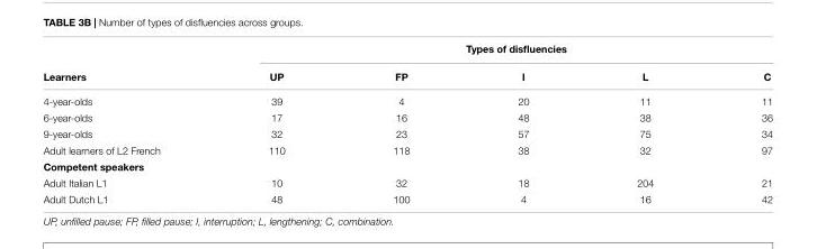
<table><thead><tr><td rowspan="2">Learners</td><td colspan="5">Types of disfluencies</td></tr><tr><td>UP</td><td>FP</td><td>I</td><td>L</td><td>C</td></tr></thead><tbody><tr><td>4-year-olds</td><td>39</td><td>4</td><td>20</td><td>11</td><td>11</td></tr><tr><td>6-year-olds</td><td>17</td><td>16</td><td>48</td><td>38</td><td>36</td></tr><tr><td>9-year-olds</td><td>32</td><td>23</td><td>57</td><td>75</td><td>34</td></tr><tr><td>Adult learners of L2 French</td><td>110</td><td>118</td><td>38</td><td>32</td><td>97</td></tr><tr><td colspan="6">Competent speakers</td></tr><tr><td>Adult Italian L1</td><td>10</td><td>32</td><td>18</td><td>204</td><td>21</td></tr><tr><td>Adult Dutch L1</td><td>48</td><td>100</td><td>4</td><td>16</td><td>42</td></tr></tbody></table>